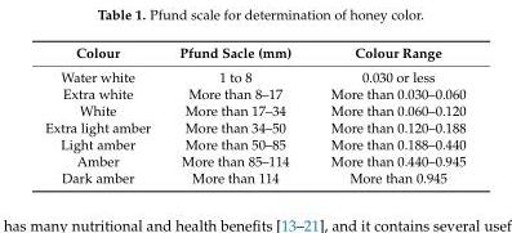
<table><thead><tr><td>Colour</td><td>Pfund Sacle (mm)</td><td>Colour Range</td></tr></thead><tbody><tr><td>Water white</td><td>1 to 8</td><td>0.030 or less</td></tr><tr><td>Extra white</td><td>More than 8–17</td><td>More than 0.030–0.060</td></tr><tr><td>White</td><td>More than 17–34</td><td>More than 0.060–0.120</td></tr><tr><td>Extra light amber</td><td>More than 34–50</td><td>More than 0.120–0.188</td></tr><tr><td>Light amber</td><td>More than 50–85</td><td>More than 0.188–0.440</td></tr><tr><td>Amber</td><td>More than 85–114</td><td>More than 0.440–0.945</td></tr><tr><td>Dark amber</td><td>More than 114</td><td>More than 0.945</td></tr></tbody></table>